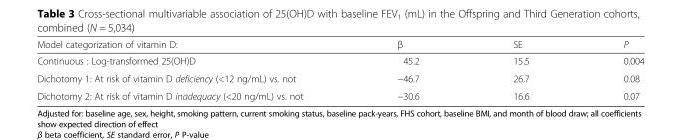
<table><thead><tr><td>Model categorization of vitamin D:</td><td>β</td><td>SE</td><td>P</td></tr></thead><tbody><tr><td>Continuous : Log-transformed 25(OH)D</td><td>45.2</td><td>15.5</td><td>0.004</td></tr><tr><td>Dichotomy 1: At risk of vitamin D deficiency (&lt;12 ng/mL) vs. not</td><td>−46.7</td><td>26.7</td><td>0.08</td></tr><tr><td>Dichotomy 2: At risk of vitamin D inadequacy (&lt;20 ng/mL) vs. not</td><td>−30.6</td><td>16.6</td><td>0.07</td></tr></tbody></table>